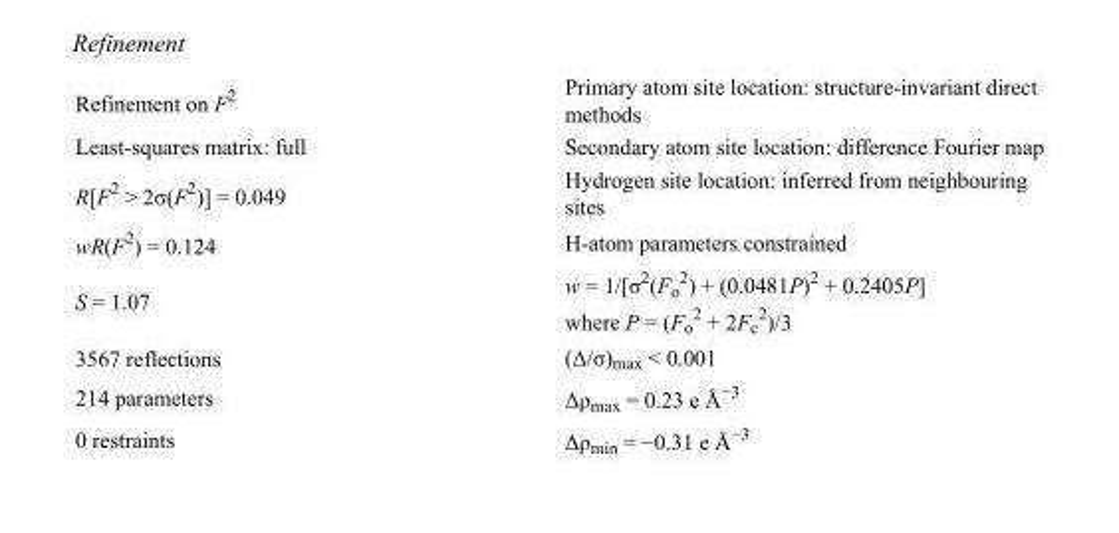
<table><tbody><tr><td>Refinement on F<sup>2</sup></td><td>Primary atom site location: structure-invariant direct methods</td></tr><tr><td>Least-squares matrix: full</td><td>Secondary atom site location: difference Fourier map</td></tr><tr><td>R[F<sup>2</sup> &gt; 2σ(F<sup>2</sup>)] = 0.049</td><td>Hydrogen site location: inferred from neighbouring sites</td></tr><tr><td>wR(F<sup>2</sup>) = 0.124</td><td>H-atom parameters constrained</td></tr><tr><td>S = 1.07</td><td>w = 1/[σ<sup>2</sup>(F<sub>o</sub> <sup>2</sup>) + (0.0481P)<sup>2</sup> + 0.2405P] where P = (F<sub>o</sub> <sup>2</sup> + 2F<sub>c</sub> <sup>2</sup>)/3</td></tr><tr><td>3567 reflections</td><td>(Δ/σ)<sub>max</sub> &lt; 0.001</td></tr><tr><td>214 parameters</td><td>Δρ<sub>max</sub> = 0.23 e Å<sup>−3</sup></td></tr><tr><td>0 restraints</td><td>Δρ<sub>min</sub> = −0.31 e Å<sup>−3</sup></td></tr></tbody></table>